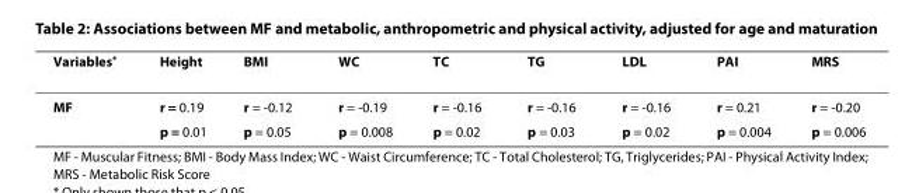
<table><thead><tr><td>Variables*</td><td>Height</td><td>BMI</td><td>WC</td><td>TC</td><td>TG</td><td>LDL</td><td>PAI</td><td>MRS</td></tr></thead><tbody><tr><td rowspan="2">MF</td><td>r = 0.19</td><td>r = -0.12</td><td>r = -0.19</td><td>r = -0.16</td><td>r = -0.16</td><td>r = -0.16</td><td>r = 0.21</td><td>r = -0.20</td></tr><tr><td>p = 0.01</td><td>p = 0.05</td><td>p = 0.008</td><td>p = 0.02</td><td>p = 0.03</td><td>p = 0.02</td><td>p = 0.004</td><td>p = 0.006</td></tr></tbody></table>